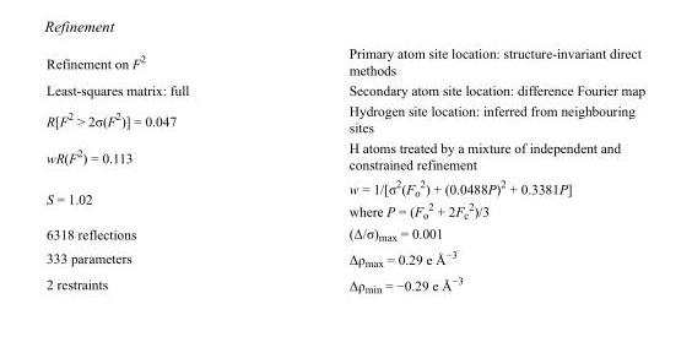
<table><tbody><tr><td>Refinement on F<sup>2</sup></td><td>Primary atom site location: structure-invariant direct methods</td></tr><tr><td>Least-squares matrix: full</td><td>Secondary atom site location: difference Fourier map</td></tr><tr><td>R[F<sup>2</sup> &gt; 2σ(F<sup>2</sup>)] = 0.047</td><td>Hydrogen site location: inferred from neighbouring sites</td></tr><tr><td>wR(F<sup>2</sup>) = 0.113</td><td>H atoms treated by a mixture of independent and constrained refinement</td></tr><tr><td>S = 1.02</td><td>w = 1/[σ<sup>2</sup>(F<sub>o</sub> <sup>2</sup>) + (0.0488P)<sup>2</sup> + 0.3381P] where P = (F<sub>o</sub> <sup>2</sup> + 2F<sub>c</sub> <sup>2</sup>)/3</td></tr><tr><td>6318 reflections</td><td>(Δ/σ)<sub>max</sub> = 0.001</td></tr><tr><td>333 parameters</td><td>Δρ<sub>max</sub> = 0.29 e Å<sup>−3</sup></td></tr><tr><td>2 restraints</td><td>Δρ<sub>min</sub> = −0.29 e Å<sup>−3</sup></td></tr></tbody></table>